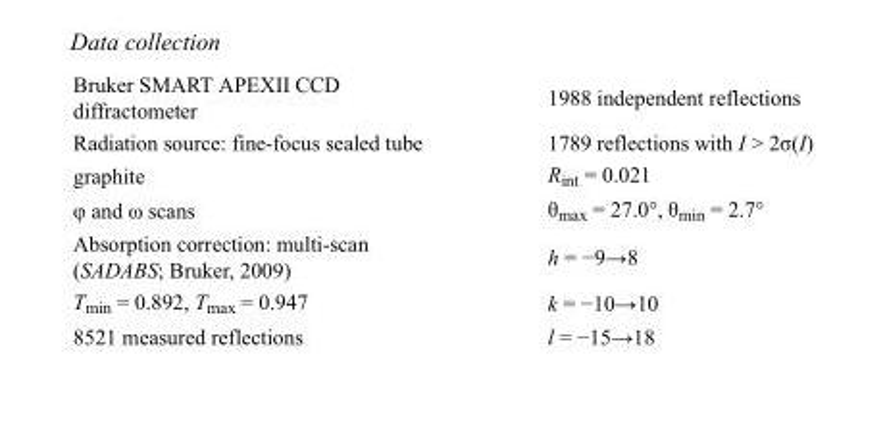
<table><tbody><tr><td>Bruker SMART APEXII CCD diffractometer</td><td>1988 independent reflections</td></tr><tr><td>Radiation source: fine-focus sealed tube</td><td>1789 reflections with I &gt; 2σ(I)</td></tr><tr><td>graphite</td><td>R<sub>int</sub> = 0.021</td></tr><tr><td>φ and ω scans</td><td>θ<sub>max</sub> = 27.0°, θ<sub>min</sub> = 2.7°</td></tr><tr><td>Absorption correction: multi-scan (SADABS; Bruker, 2009)</td><td>h = −9→8</td></tr><tr><td>T<sub>min</sub> = 0.892, T<sub>max</sub> = 0.947</td><td>k = −10→10</td></tr><tr><td>8521 measured reflections</td><td>l = −15→18</td></tr></tbody></table>